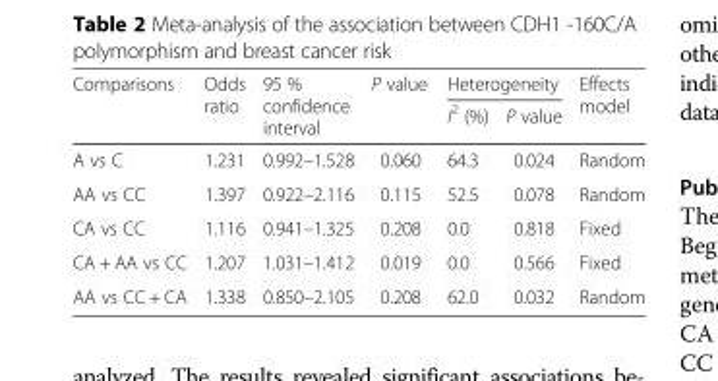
<table><thead><tr><td rowspan="2">Comparisons</td><td rowspan="2">Odds ratio</td><td rowspan="2">95 % confidence interval</td><td rowspan="2">P value</td><td colspan="2">Heterogeneity</td><td rowspan="2">Effects model</td></tr><tr><td>I<sup>2</sup> (%)</td><td>P value</td></tr></thead><tbody><tr><td>A vs C</td><td>1.231</td><td>0.992–1.528</td><td>0.060</td><td>64.3</td><td>0.024</td><td>Random</td></tr><tr><td>AA vs CC</td><td>1.397</td><td>0.922–2.116</td><td>0.115</td><td>52.5</td><td>0.078</td><td>Random</td></tr><tr><td>CA vs CC</td><td>1.116</td><td>0.941–1.325</td><td>0.208</td><td>0.0</td><td>0.818</td><td>Fixed</td></tr><tr><td>CA + AA vs CC</td><td>1.207</td><td>1.031–1.412</td><td>0.019</td><td>0.0</td><td>0.566</td><td>Fixed</td></tr><tr><td>AA vs CC + CA</td><td>1.338</td><td>0.850–2.105</td><td>0.208</td><td>62.0</td><td>0.032</td><td>Random</td></tr></tbody></table>